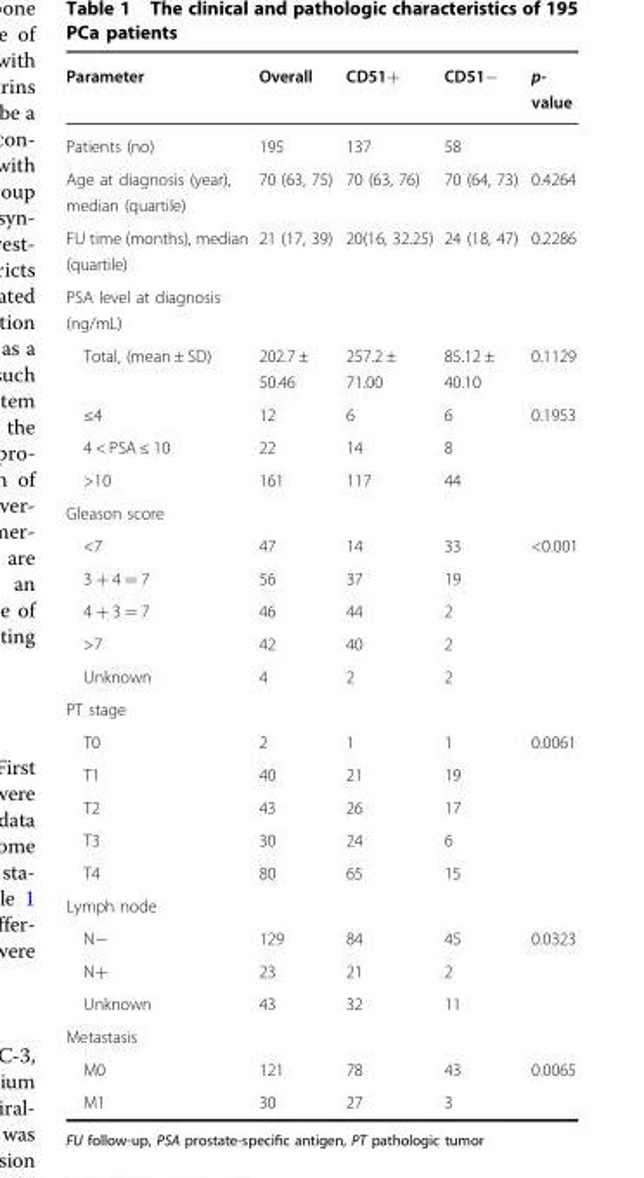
<table><thead><tr><td>Parameter</td><td>Overall</td><td>CD51+</td><td>CD51−</td><td>p- value</td></tr></thead><tbody><tr><td>Patients (no)</td><td>195</td><td>137</td><td>58</td><td></td></tr><tr><td>Age at diagnosis (year), median (quartile)</td><td>70 (63, 75)</td><td>70 (63, 76)</td><td>70 (64, 73)</td><td>0.4264</td></tr><tr><td>FU time (months), median (quartile)</td><td>21 (17, 39)</td><td>20(16, 32.25)</td><td>24 (18, 47)</td><td>0.2286</td></tr><tr><td colspan="5">PSA level at diagnosis (ng/mL)</td></tr><tr><td>Total, (mean ± SD)</td><td>202.7 ± 50.46</td><td>257.2 ± 71.00</td><td>85.12 ± 40.10</td><td>0.1129</td></tr><tr><td>≤4</td><td>12</td><td>6</td><td>6</td><td>0.1953</td></tr><tr><td>4 &lt; PSA ≤ 10</td><td>22</td><td>14</td><td>8</td><td></td></tr><tr><td>&gt;10</td><td>161</td><td>117</td><td>44</td><td></td></tr><tr><td colspan="5">Gleason score</td></tr><tr><td>&lt;7</td><td>47</td><td>14</td><td>33</td><td>&lt;0.001</td></tr><tr><td>3 + 4 = 7</td><td>56</td><td>37</td><td>19</td><td></td></tr><tr><td>4 + 3 = 7</td><td>46</td><td>44</td><td>2</td><td></td></tr><tr><td>&gt;7</td><td>42</td><td>40</td><td>2</td><td></td></tr><tr><td>Unknown</td><td>4</td><td>2</td><td>2</td><td></td></tr><tr><td colspan="5">PT stage</td></tr><tr><td>T0</td><td>2</td><td>1</td><td>1</td><td>0.0061</td></tr><tr><td>T1</td><td>40</td><td>21</td><td>19</td><td></td></tr><tr><td>T2</td><td>43</td><td>26</td><td>17</td><td></td></tr><tr><td>T3</td><td>30</td><td>24</td><td>6</td><td></td></tr><tr><td>T4</td><td>80</td><td>65</td><td>15</td><td></td></tr><tr><td colspan="5">Lymph node</td></tr><tr><td>N−</td><td>129</td><td>84</td><td>45</td><td>0.0323</td></tr><tr><td>N+</td><td>23</td><td>21</td><td>2</td><td></td></tr><tr><td>Unknown</td><td>43</td><td>32</td><td>11</td><td></td></tr><tr><td colspan="5">Metastasis</td></tr><tr><td>M0</td><td>121</td><td>78</td><td>43</td><td>0.0065</td></tr><tr><td>M1</td><td>30</td><td>27</td><td>3</td><td></td></tr></tbody></table>